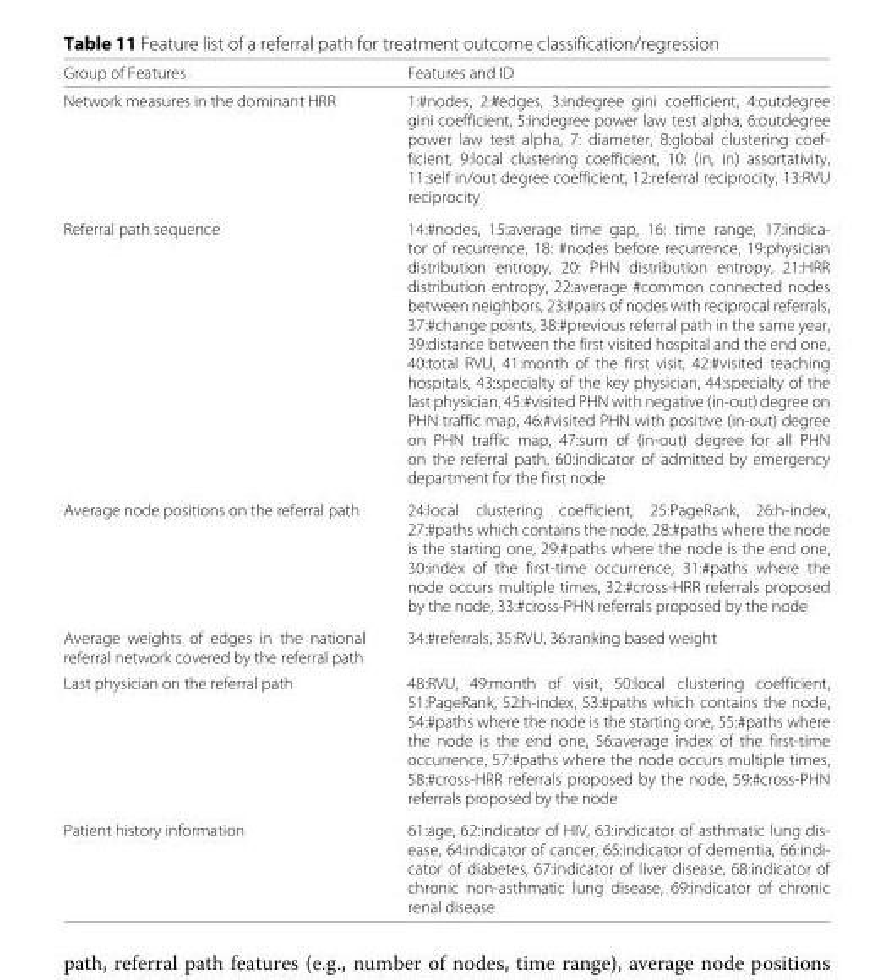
<table><thead><tr><td>Group of Features</td><td>Features and ID</td></tr></thead><tbody><tr><td>Network measures in the dominant HRR</td><td>1:#nodes, 2:#edges, 3:indegree gini coefficient, 4:outdegree gini coefficient, 5:indegree power law test alpha, 6:outdegree power law test alpha, 7: diameter, 8:global clustering coef- ficient, 9:local clustering coefficient, 10: (in, in) assortativity, 11:self in/out degree coefficient, 12:referral reciprocity, 13:RVU reciprocity</td></tr><tr><td>Referral path sequence</td><td>14:#nodes, 15:average time gap, 16: time range, 17:indica- tor of recurrence, 18: #nodes before recurrence, 19:physician distribution entropy, 20: PHN distribution entropy, 21:HRR distribution entropy, 22:average #common connected nodes between neighbors, 23:#pairs of nodes with reciprocal referrals, 37:#change points, 38:#previous referral path in the same year, 39:distance between the first visited hospital and the end one, 40:total RVU, 41:month of the first visit, 42:#visited teaching hospitals, 43:specialty of the key physician, 44:specialty of the last physician, 45:#visited PHN with negative (in-out) degree on PHN traffic map, 46:#visited PHN with positive (in-out) degree on PHN traffic map, 47:sum of (in-out) degree for all PHN on the referral path, 60:indicator of admitted by emergency department for the first node</td></tr><tr><td>Average node positions on the referral path</td><td>24:local clustering coefficient, 25:PageRank, 26:h-index, 27:#paths which contains the node, 28:#paths where the node is the starting one, 29:#paths where the node is the end one, 30:index of the first-time occurrence, 31:#paths where the node occurs multiple times, 32:#cross-HRR referrals proposed by the node, 33:#cross-PHN referrals proposed by the node</td></tr><tr><td>Average weights of edges in the national referral network covered by the referral path</td><td>34:#referrals, 35:RVU, 36:ranking based weight</td></tr><tr><td>Last physician on the referral path</td><td>48:RVU, 49:month of visit, 50:local clustering coefficient, 51:PageRank, 52:h-index, 53:#paths which contains the node, 54:#paths where the node is the starting one, 55:#paths where the node is the end one, 56:average index of the first-time occurrence, 57:#paths where the node occurs multiple times, 58:#cross-HRR referrals proposed by the node, 59:#cross-PHN referrals proposed by the node</td></tr><tr><td>Patient history information</td><td>61:age, 62:indicator of HIV, 63:indicator of asthmatic lung dis- ease, 64:indicator of cancer, 65:indicator of dementia, 66:indi- cator of diabetes, 67:indicator of liver disease, 68:indicator of chronic non-asthmatic lung disease, 69:indicator of chronic renal disease</td></tr></tbody></table>